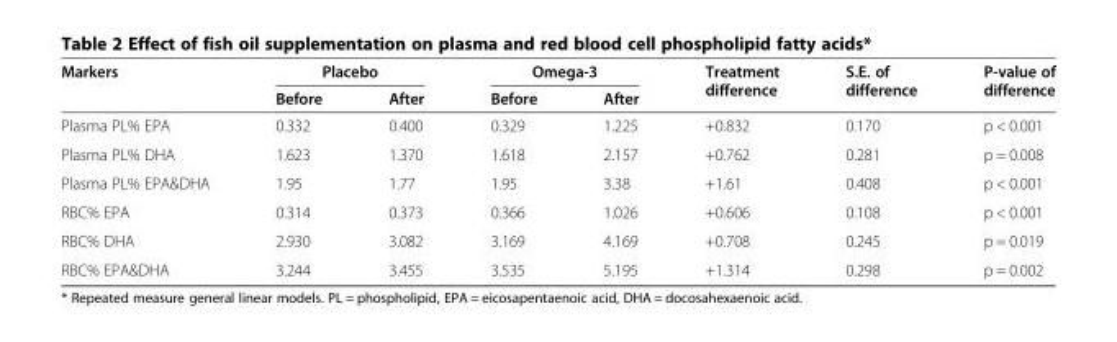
<table><thead><tr><td rowspan="2">Markers</td><td colspan="2">Placebo</td><td colspan="2">Omega-3</td><td rowspan="2">Treatment difference</td><td rowspan="2">S.E. of difference</td><td rowspan="2">P-value of difference</td></tr><tr><td>Before</td><td>After</td><td>Before</td><td>After</td></tr></thead><tbody><tr><td>Plasma PL% EPA</td><td>0.332</td><td>0.400</td><td>0.329</td><td>1.225</td><td>+0.832</td><td>0.170</td><td>p &lt; 0.001</td></tr><tr><td>Plasma PL% DHA</td><td>1.623</td><td>1.370</td><td>1.618</td><td>2.157</td><td>+0.762</td><td>0.281</td><td>p = 0.008</td></tr><tr><td>Plasma PL% EPA&amp;DHA</td><td>1.95</td><td>1.77</td><td>1.95</td><td>3.38</td><td>+1.61</td><td>0.408</td><td>p &lt; 0.001</td></tr><tr><td>RBC% EPA</td><td>0.314</td><td>0.373</td><td>0.366</td><td>1.026</td><td>+0.606</td><td>0.108</td><td>p &lt; 0.001</td></tr><tr><td>RBC% DHA</td><td>2.930</td><td>3.082</td><td>3.169</td><td>4.169</td><td>+0.708</td><td>0.245</td><td>p = 0.019</td></tr><tr><td>RBC% EPA&amp;DHA</td><td>3.244</td><td>3.455</td><td>3.535</td><td>5.195</td><td>+1.314</td><td>0.298</td><td>p = 0.002</td></tr></tbody></table>